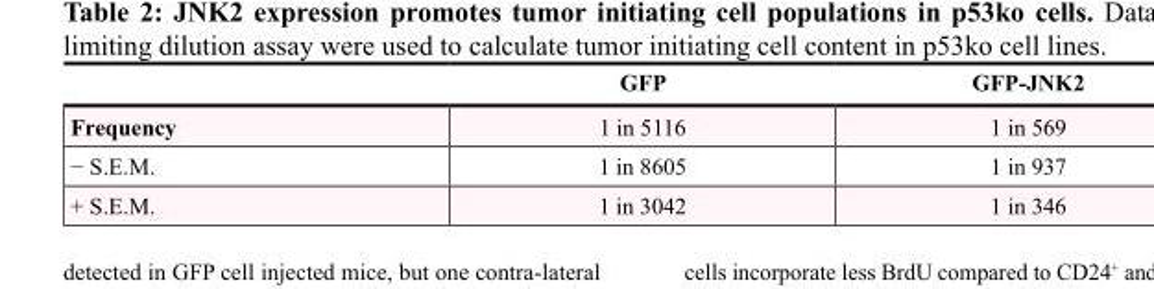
<table><thead><tr><td></td><td>GFP</td><td>GFP-JNK2</td></tr></thead><tbody><tr><td>Frequency</td><td>1 in 5116</td><td>1 in 569</td></tr><tr><td>− S.E.M.</td><td>1 in 8605</td><td>1 in 937</td></tr><tr><td>+ S.E.M.</td><td>1 in 3042</td><td>1 in 346</td></tr></tbody></table>